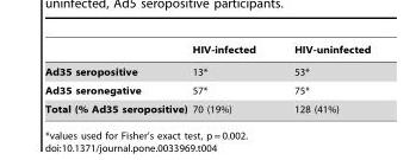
<table><thead><tr><td></td><td>HIV-infected</td><td>HIV-uninfected</td></tr></thead><tbody><tr><td>Ad35 seropositive</td><td>13*</td><td>53*</td></tr><tr><td>Ad35 seronegative</td><td>57*</td><td>75*</td></tr><tr><td>Total (% Ad35 seropositive)</td><td>70 (19%)</td><td>128 (41%)</td></tr></tbody></table>